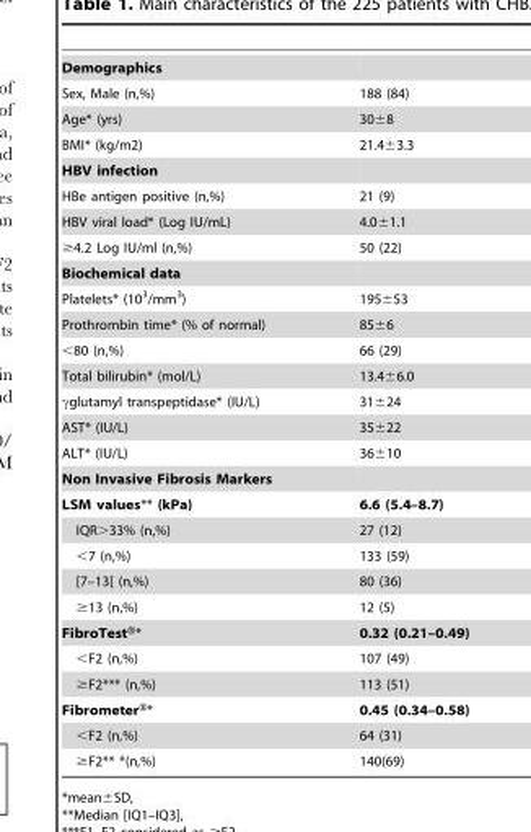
<table><tbody><tr><td colspan="2">Demographics</td></tr><tr><td>Sex, Male (n,%)</td><td>188 (84)</td></tr><tr><td>Age* (yrs)</td><td>30±8</td></tr><tr><td>BMI* (kg/m2)</td><td>21.4±3.3</td></tr><tr><td colspan="2">HBV infection</td></tr><tr><td>HBe antigen positive (n,%)</td><td>21 (9)</td></tr><tr><td>HBV viral load* (Log IU/mL)</td><td>4.0±1.1</td></tr><tr><td>≥4.2 Log IU/ml (n,%)</td><td>50 (22)</td></tr><tr><td colspan="2">Biochemical data</td></tr><tr><td>Platelets* (10<sup>3</sup>/mm<sup>3</sup>)</td><td>195±53</td></tr><tr><td>Prothrombin time* (% of normal)</td><td>85±6</td></tr><tr><td>&lt;80 (n,%)</td><td>66 (29)</td></tr><tr><td>Total bilirubin* (mol/L)</td><td>13.4±6.0</td></tr><tr><td>γglutamyl transpeptidase* (IU/L)</td><td>31±24</td></tr><tr><td>AST* (IU/L)</td><td>35±22</td></tr><tr><td>ALT* (IU/L)</td><td>36±10</td></tr><tr><td colspan="2">Non Invasive Fibrosis Markers</td></tr><tr><td>LSM values** (kPa)</td><td>6.6 (5.4–8.7)</td></tr><tr><td>IQR&gt;33% (n,%)</td><td>27 (12)</td></tr><tr><td>&lt;7 (n,%)</td><td>133 (59)</td></tr><tr><td>[7–13[ (n,%)</td><td>80 (36)</td></tr><tr><td>≥13 (n,%)</td><td>12 (5)</td></tr><tr><td>FibroTest®*</td><td>0.32 (0.21–0.49)</td></tr><tr><td>&lt;F2 (n,%)</td><td>107 (49)</td></tr><tr><td>≥F2*** (n,%)</td><td>113 (51)</td></tr><tr><td>Fibrometer®*</td><td>0.45 (0.34–0.58)</td></tr><tr><td>&lt;F2 (n,%)</td><td>64 (31)</td></tr><tr><td>≥F2** *(n,%)</td><td>140(69)</td></tr></tbody></table>